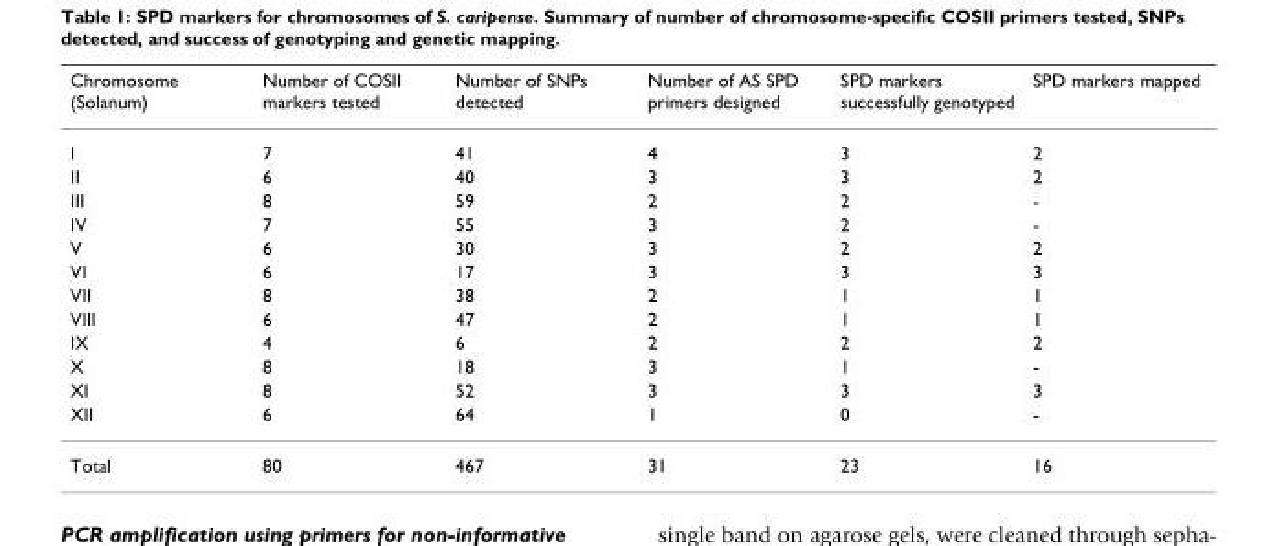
<table><thead><tr><td>Chromosome (Solanum)</td><td>Number of COSII markers tested</td><td>Number of SNPs detected</td><td>Number of AS SPD primers designed</td><td>SPD markers successfully genotyped</td><td>SPD markers mapped</td></tr></thead><tbody><tr><td>I</td><td>7</td><td>41</td><td>4</td><td>3</td><td>2</td></tr><tr><td>II</td><td>6</td><td>40</td><td>3</td><td>3</td><td>2</td></tr><tr><td>III</td><td>8</td><td>59</td><td>2</td><td>2</td><td>-</td></tr><tr><td>IV</td><td>7</td><td>55</td><td>3</td><td>2</td><td>-</td></tr><tr><td>V</td><td>6</td><td>30</td><td>3</td><td>2</td><td>2</td></tr><tr><td>VI</td><td>6</td><td>17</td><td>3</td><td>3</td><td>3</td></tr><tr><td>VII</td><td>8</td><td>38</td><td>2</td><td>1</td><td>1</td></tr><tr><td>VIII</td><td>6</td><td>47</td><td>2</td><td>1</td><td>1</td></tr><tr><td>IX</td><td>4</td><td>6</td><td>2</td><td>2</td><td>2</td></tr><tr><td>X</td><td>8</td><td>18</td><td>3</td><td>1</td><td>-</td></tr><tr><td>XI</td><td>8</td><td>52</td><td>3</td><td>3</td><td>3</td></tr><tr><td>XII</td><td>6</td><td>64</td><td>1</td><td>0</td><td>-</td></tr><tr><td>Total</td><td>80</td><td>467</td><td>31</td><td>23</td><td>16</td></tr></tbody></table>